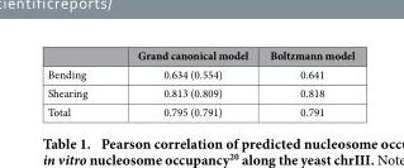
<table><thead><tr><td></td><td>Grand canonical model</td><td>Boltzmann model</td></tr></thead><tbody><tr><td>Bending</td><td>0.634 (0.554)</td><td>0.641</td></tr><tr><td>Shearing</td><td>0.813 (0.809)</td><td>0.818</td></tr><tr><td>Total</td><td>0.795 (0.791)</td><td>0.791</td></tr></tbody></table>